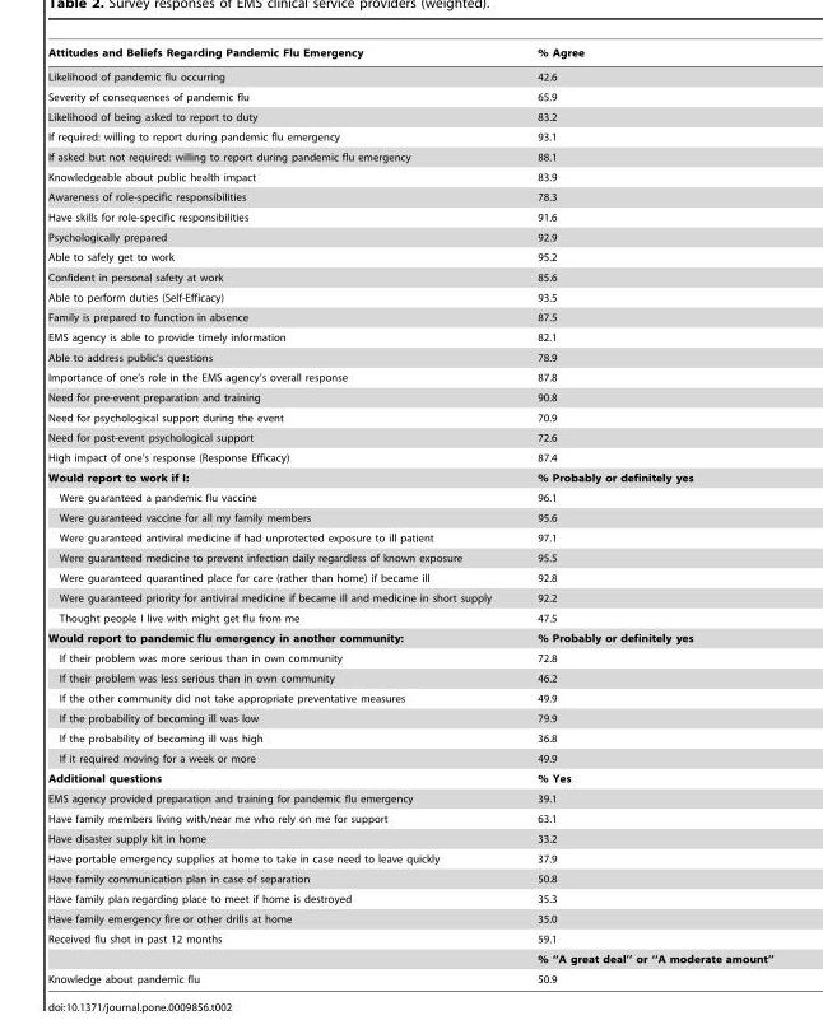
<table><thead><tr><td>Attitudes and Beliefs Regarding Pandemic Flu Emergency</td><td>% Agree</td></tr></thead><tbody><tr><td>Likelihood of pandemic flu occurring</td><td>42.6</td></tr><tr><td>Severity of consequences of pandemic flu</td><td>65.9</td></tr><tr><td>Likelihood of being asked to report to duty</td><td>83.2</td></tr><tr><td>If required: willing to report during pandemic flu emergency</td><td>93.1</td></tr><tr><td>If asked but not required: willing to report during pandemic flu emergency</td><td>88.1</td></tr><tr><td>Knowledgeable about public health impact</td><td>83.9</td></tr><tr><td>Awareness of role-specific responsibilities</td><td>78.3</td></tr><tr><td>Have skills for role-specific responsibilities</td><td>91.6</td></tr><tr><td>Psychologically prepared</td><td>92.9</td></tr><tr><td>Able to safely get to work</td><td>95.2</td></tr><tr><td>Confident in personal safety at work</td><td>85.6</td></tr><tr><td>Able to perform duties (Self-Efficacy)</td><td>93.5</td></tr><tr><td>Family is prepared to function in absence</td><td>87.5</td></tr><tr><td>EMS agency is able to provide timely information</td><td>82.1</td></tr><tr><td>Able to address public’s questions</td><td>78.9</td></tr><tr><td>Importance of one’s role in the EMS agency’s overall response</td><td>87.8</td></tr><tr><td>Need for pre-event preparation and training</td><td>90.8</td></tr><tr><td>Need for psychological support during the event</td><td>70.9</td></tr><tr><td>Need for post-event psychological support</td><td>72.6</td></tr><tr><td>High impact of one’s response (Response Efficacy)</td><td>87.4</td></tr><tr><td>Would report to work if I:</td><td>% Probably or definitely yes</td></tr><tr><td>Were guaranteed a pandemic flu vaccine</td><td>96.1</td></tr><tr><td>Were guaranteed vaccine for all my family members</td><td>95.6</td></tr><tr><td>Were guaranteed antiviral medicine if had unprotected exposure to ill patient</td><td>97.1</td></tr><tr><td>Were guaranteed medicine to prevent infection daily regardless of known exposure</td><td>95.5</td></tr><tr><td>Were guaranteed quarantined place for care (rather than home) if became ill</td><td>92.8</td></tr><tr><td>Were guaranteed priority for antiviral medicine if became ill and medicine in short supply</td><td>92.2</td></tr><tr><td>Thought people I live with might get flu from me</td><td>47.5</td></tr><tr><td>Would report to pandemic flu emergency in another community:</td><td>% Probably or definitely yes</td></tr><tr><td>If their problem was more serious than in own community</td><td>72.8</td></tr><tr><td>If their problem was less serious than in own community</td><td>46.2</td></tr><tr><td>If the other community did not take appropriate preventative measures</td><td>49.9</td></tr><tr><td>If the probability of becoming ill was low</td><td>79.9</td></tr><tr><td>If the probability of becoming ill was high</td><td>36.8</td></tr><tr><td>If it required moving for a week or more</td><td>49.9</td></tr><tr><td>Additional questions</td><td>% Yes</td></tr><tr><td>EMS agency provided preparation and training for pandemic flu emergency</td><td>39.1</td></tr><tr><td>Have family members living with/near me who rely on me for support</td><td>63.1</td></tr><tr><td>Have disaster supply kit in home</td><td>33.2</td></tr><tr><td>Have portable emergency supplies at home to take in case need to leave quickly</td><td>37.9</td></tr><tr><td>Have family communication plan in case of separation</td><td>50.8</td></tr><tr><td>Have family plan regarding place to meet if home is destroyed</td><td>35.3</td></tr><tr><td>Have family emergency fire or other drills at home</td><td>35.0</td></tr><tr><td rowspan="2">Received flu shot in past 12 months</td><td>59.1</td></tr><tr><td>% ‘‘A great deal’’ or ‘‘A moderate amount’’</td></tr><tr><td>Knowledge about pandemic flu</td><td>50.9</td></tr></tbody></table>